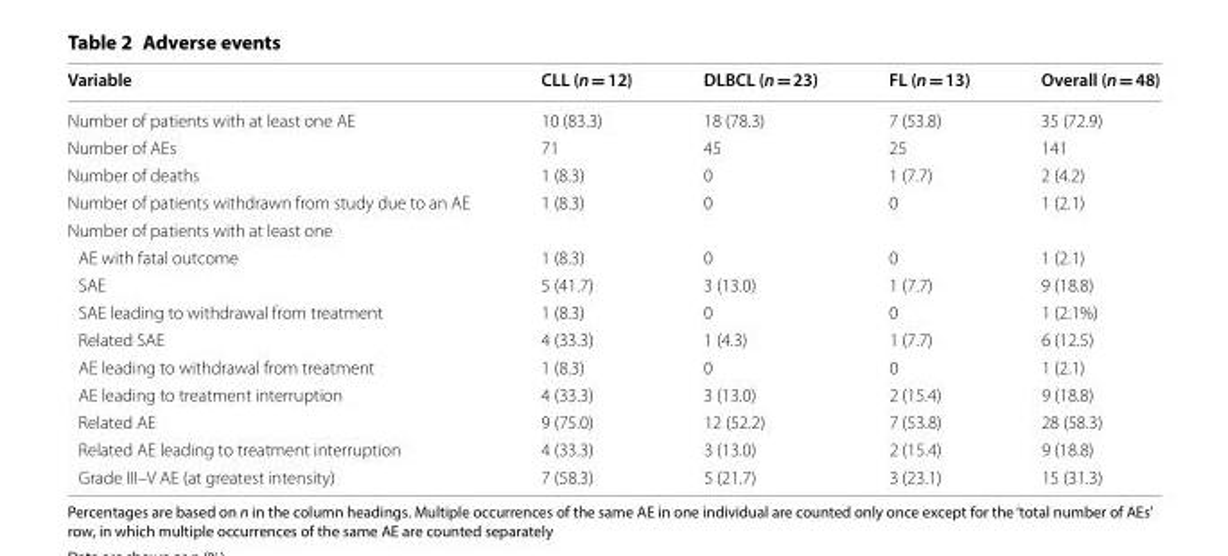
<table><thead><tr><td>Variable</td><td>CLL (n = 12)</td><td>DLBCL (n = 23)</td><td>FL (n = 13)</td><td>Overall (n = 48)</td></tr></thead><tbody><tr><td>Number of patients with at least one AE</td><td>10 (83.3)</td><td>18 (78.3)</td><td>7 (53.8)</td><td>35 (72.9)</td></tr><tr><td>Number of AEs</td><td>71</td><td>45</td><td>25</td><td>141</td></tr><tr><td>Number of deaths</td><td>1 (8.3)</td><td>0</td><td>1 (7.7)</td><td>2 (4.2)</td></tr><tr><td>Number of patients withdrawn from study due to an AE</td><td>1 (8.3)</td><td>0</td><td>0</td><td>1 (2.1)</td></tr><tr><td colspan="5">Number of patients with at least one</td></tr><tr><td>AE with fatal outcome</td><td>1 (8.3)</td><td>0</td><td>0</td><td>1 (2.1)</td></tr><tr><td>SAE</td><td>5 (41.7)</td><td>3 (13.0)</td><td>1 (7.7)</td><td>9 (18.8)</td></tr><tr><td>SAE leading to withdrawal from treatment</td><td>1 (8.3)</td><td>0</td><td>0</td><td>1 (2.1%)</td></tr><tr><td>Related SAE</td><td>4 (33.3)</td><td>1 (4.3)</td><td>1 (7.7)</td><td>6 (12.5)</td></tr><tr><td>AE leading to withdrawal from treatment</td><td>1 (8.3)</td><td>0</td><td>0</td><td>1 (2.1)</td></tr><tr><td>AE leading to treatment interruption</td><td>4 (33.3)</td><td>3 (13.0)</td><td>2 (15.4)</td><td>9 (18.8)</td></tr><tr><td>Related AE</td><td>9 (75.0)</td><td>12 (52.2)</td><td>7 (53.8)</td><td>28 (58.3)</td></tr><tr><td>Related AE leading to treatment interruption</td><td>4 (33.3)</td><td>3 (13.0)</td><td>2 (15.4)</td><td>9 (18.8)</td></tr><tr><td>Grade III–V AE (at greatest intensity)</td><td>7 (58.3)</td><td>5 (21.7)</td><td>3 (23.1)</td><td>15 (31.3)</td></tr></tbody></table>